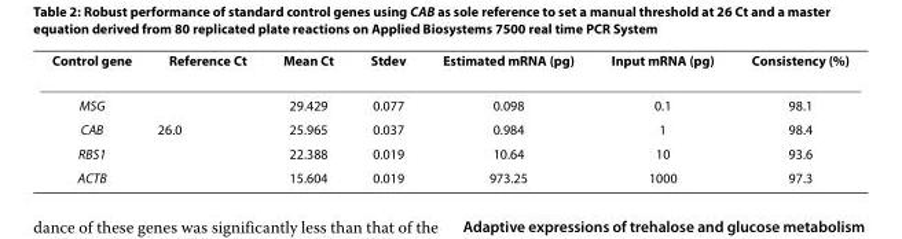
<table><thead><tr><td>Control gene</td><td>Reference Ct</td><td>Mean Ct</td><td>Stdev</td><td>Estimated mRNA (pg)</td><td>Input mRNA (pg)</td><td>Consistency (%)</td></tr></thead><tbody><tr><td>MSG</td><td></td><td>29.429</td><td>0.077</td><td>0.098</td><td>0.1</td><td>98.1</td></tr><tr><td>CAB</td><td>26.0</td><td>25.965</td><td>0.037</td><td>0.984</td><td>1</td><td>98.4</td></tr><tr><td>RBS1</td><td></td><td>22.388</td><td>0.019</td><td>10.64</td><td>10</td><td>93.6</td></tr><tr><td>ACTB</td><td></td><td>15.604</td><td>0.019</td><td>973.25</td><td>1000</td><td>97.3</td></tr></tbody></table>